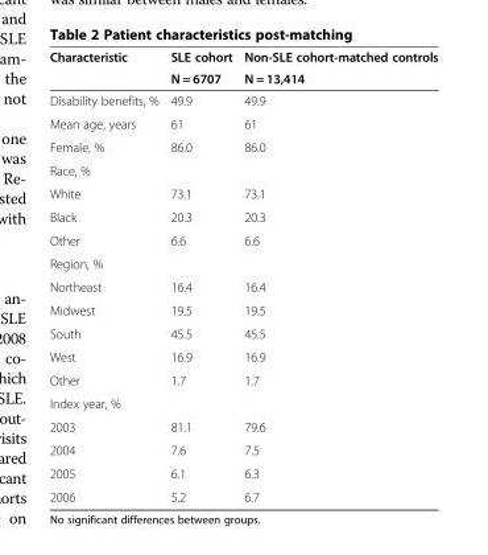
<table><thead><tr><td rowspan="2">Characteristic</td><td rowspan="2">SLE cohort N = 6707</td><td rowspan="2">Non-SLE cohort-matched controls N = 13,414</td></tr><tr></tr></thead><tbody><tr><td>Disability benefits, %</td><td>49.9</td><td>49.9</td></tr><tr><td>Mean age, years</td><td>61</td><td>61</td></tr><tr><td>Female, %</td><td>86.0</td><td>86.0</td></tr><tr><td colspan="3">Race, %</td></tr><tr><td>White</td><td>73.1</td><td>73.1</td></tr><tr><td>Black</td><td>20.3</td><td>20.3</td></tr><tr><td>Other</td><td>6.6</td><td>6.6</td></tr><tr><td colspan="3">Region, %</td></tr><tr><td>Northeast</td><td>16.4</td><td>16.4</td></tr><tr><td>Midwest</td><td>19.5</td><td>19.5</td></tr><tr><td>South</td><td>45.5</td><td>45.5</td></tr><tr><td>West</td><td>16.9</td><td>16.9</td></tr><tr><td>Other</td><td>1.7</td><td>1.7</td></tr><tr><td colspan="3">Index year, %</td></tr><tr><td>2003</td><td>81.1</td><td>79.6</td></tr><tr><td>2004</td><td>7.6</td><td>7.5</td></tr><tr><td>2005</td><td>6.1</td><td>6.3</td></tr><tr><td>2006</td><td>5.2</td><td>6.7</td></tr></tbody></table>